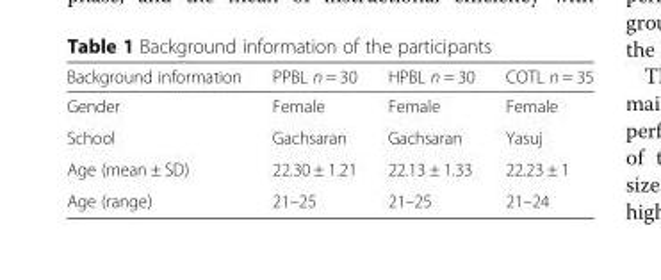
<table><thead><tr><td>Background information</td><td>PPBL n = 30</td><td>HPBL n = 30</td><td>COTL n = 35</td></tr></thead><tbody><tr><td>Gender</td><td>Female</td><td>Female</td><td>Female</td></tr><tr><td>School</td><td>Gachsaran</td><td>Gachsaran</td><td>Yasuj</td></tr><tr><td>Age (mean ± SD)</td><td>22.30 ± 1.21</td><td>22.13 ± 1.33</td><td>22.23 ± 1</td></tr><tr><td>Age (range)</td><td>21–25</td><td>21–25</td><td>21–24</td></tr></tbody></table>